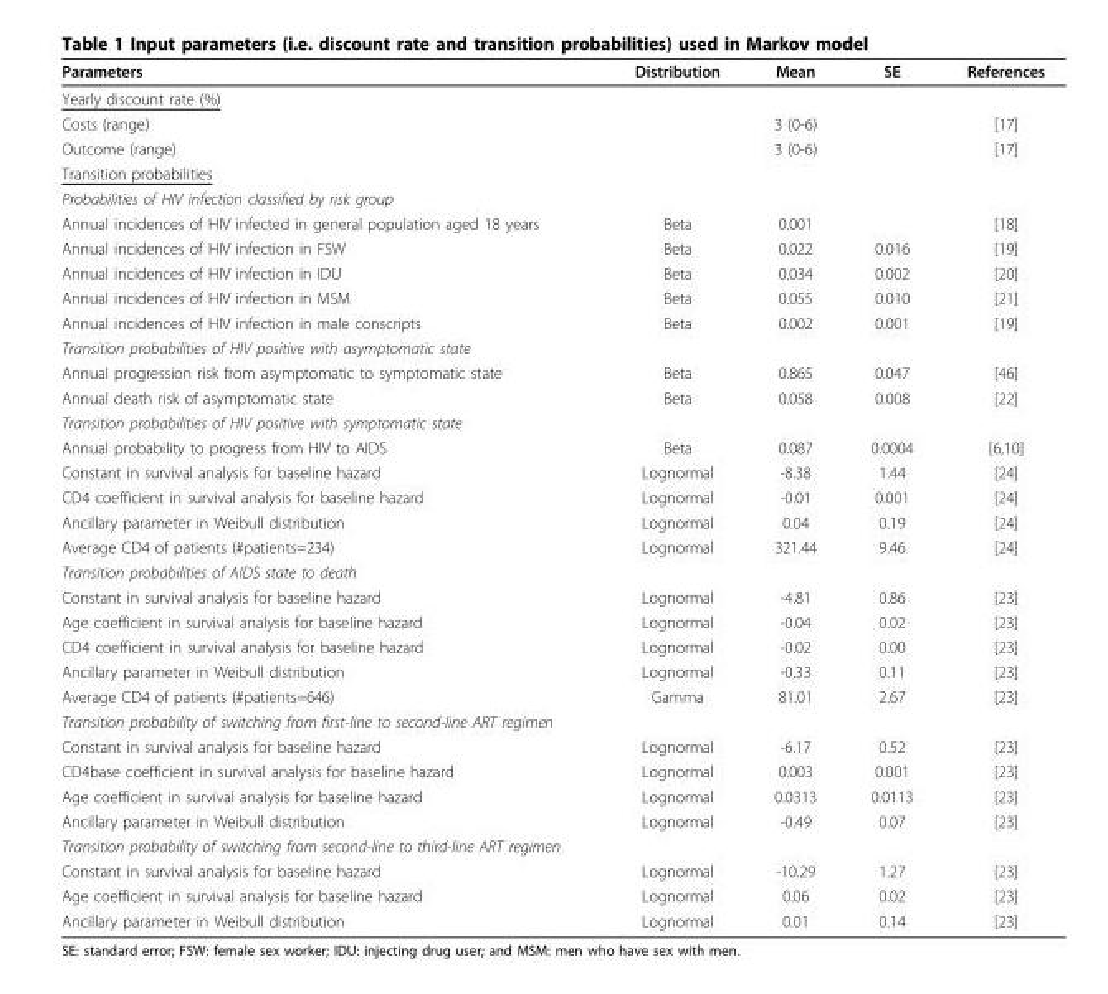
<table><thead><tr><td>Parameters</td><td>Distribution</td><td>Mean</td><td>SE</td><td>References</td></tr></thead><tbody><tr><td colspan="5">Yearly discount rate (%)</td></tr><tr><td>Costs (range)</td><td></td><td>3 (0-6)</td><td></td><td>[17]</td></tr><tr><td>Outcome (range)</td><td></td><td>3 (0-6)</td><td></td><td>[17]</td></tr><tr><td colspan="5">Transition probabilities</td></tr><tr><td colspan="5">Probabilities of HIV infection classified by risk group</td></tr><tr><td>Annual incidences of HIV infected in general population aged 18 years</td><td>Beta</td><td>0.001</td><td></td><td>[18]</td></tr><tr><td>Annual incidences of HIV infection in FSW</td><td>Beta</td><td>0.022</td><td>0.016</td><td>[19]</td></tr><tr><td>Annual incidences of HIV infection in IDU</td><td>Beta</td><td>0.034</td><td>0.002</td><td>[20]</td></tr><tr><td>Annual incidences of HIV infection in MSM</td><td>Beta</td><td>0.055</td><td>0.010</td><td>[21]</td></tr><tr><td>Annual incidences of HIV infection in male conscripts</td><td>Beta</td><td>0.002</td><td>0.001</td><td>[19]</td></tr><tr><td colspan="5">Transition probabilities of HIV positive with asymptomatic state</td></tr><tr><td>Annual progression risk from asymptomatic to symptomatic state</td><td>Beta</td><td>0.865</td><td>0.047</td><td>[46]</td></tr><tr><td>Annual death risk of asymptomatic state</td><td>Beta</td><td>0.058</td><td>0.008</td><td>[22]</td></tr><tr><td colspan="5">Transition probabilities of HIV positive with symptomatic state</td></tr><tr><td>Annual probability to progress from HIV to AIDS</td><td>Beta</td><td>0.087</td><td>0.0004</td><td>[6,10]</td></tr><tr><td>Constant in survival analysis for baseline hazard</td><td>Lognormal</td><td>-8.38</td><td>1.44</td><td>[24]</td></tr><tr><td>CD4 coefficient in survival analysis for baseline hazard</td><td>Lognormal</td><td>-0.01</td><td>0.001</td><td>[24]</td></tr><tr><td>Ancillary parameter in Weibull distribution</td><td>Lognormal</td><td>0.04</td><td>0.19</td><td>[24]</td></tr><tr><td>Average CD4 of patients (#patients=234)</td><td>Lognormal</td><td>321.44</td><td>9.46</td><td>[24]</td></tr><tr><td colspan="5">Transition probabilities of AIDS state to death</td></tr><tr><td>Constant in survival analysis for baseline hazard</td><td>Lognormal</td><td>-4.81</td><td>0.86</td><td>[23]</td></tr><tr><td>Age coefficient in survival analysis for baseline hazard</td><td>Lognormal</td><td>-0.04</td><td>0.02</td><td>[23]</td></tr><tr><td>CD4 coefficient in survival analysis for baseline hazard</td><td>Lognormal</td><td>-0.02</td><td>0.00</td><td>[23]</td></tr><tr><td>Ancillary parameter in Weibull distribution</td><td>Lognormal</td><td>-0.33</td><td>0.11</td><td>[23]</td></tr><tr><td>Average CD4 of patients (#patients=646)</td><td>Gamma</td><td>81.01</td><td>2.67</td><td>[23]</td></tr><tr><td colspan="5">Transition probability of switching from first-line to second-line ART regimen</td></tr><tr><td>Constant in survival analysis for baseline hazard</td><td>Lognormal</td><td>-6.17</td><td>0.52</td><td>[23]</td></tr><tr><td>CD4base coefficient in survival analysis for baseline hazard</td><td>Lognormal</td><td>0.003</td><td>0.001</td><td>[23]</td></tr><tr><td>Age coefficient in survival analysis for baseline hazard</td><td>Lognormal</td><td>0.0313</td><td>0.0113</td><td>[23]</td></tr><tr><td>Ancillary parameter in Weibull distribution</td><td>Lognormal</td><td>-0.49</td><td>0.07</td><td>[23]</td></tr><tr><td colspan="5">Transition probability of switching from second-line to third-line ART regimen</td></tr><tr><td>Constant in survival analysis for baseline hazard</td><td>Lognormal</td><td>-10.29</td><td>1.27</td><td>[23]</td></tr><tr><td>Age coefficient in survival analysis for baseline hazard</td><td>Lognormal</td><td>0.06</td><td>0.02</td><td>[23]</td></tr><tr><td>Ancillary parameter in Weibull distribution</td><td>Lognormal</td><td>0.01</td><td>0.14</td><td>[23]</td></tr></tbody></table>